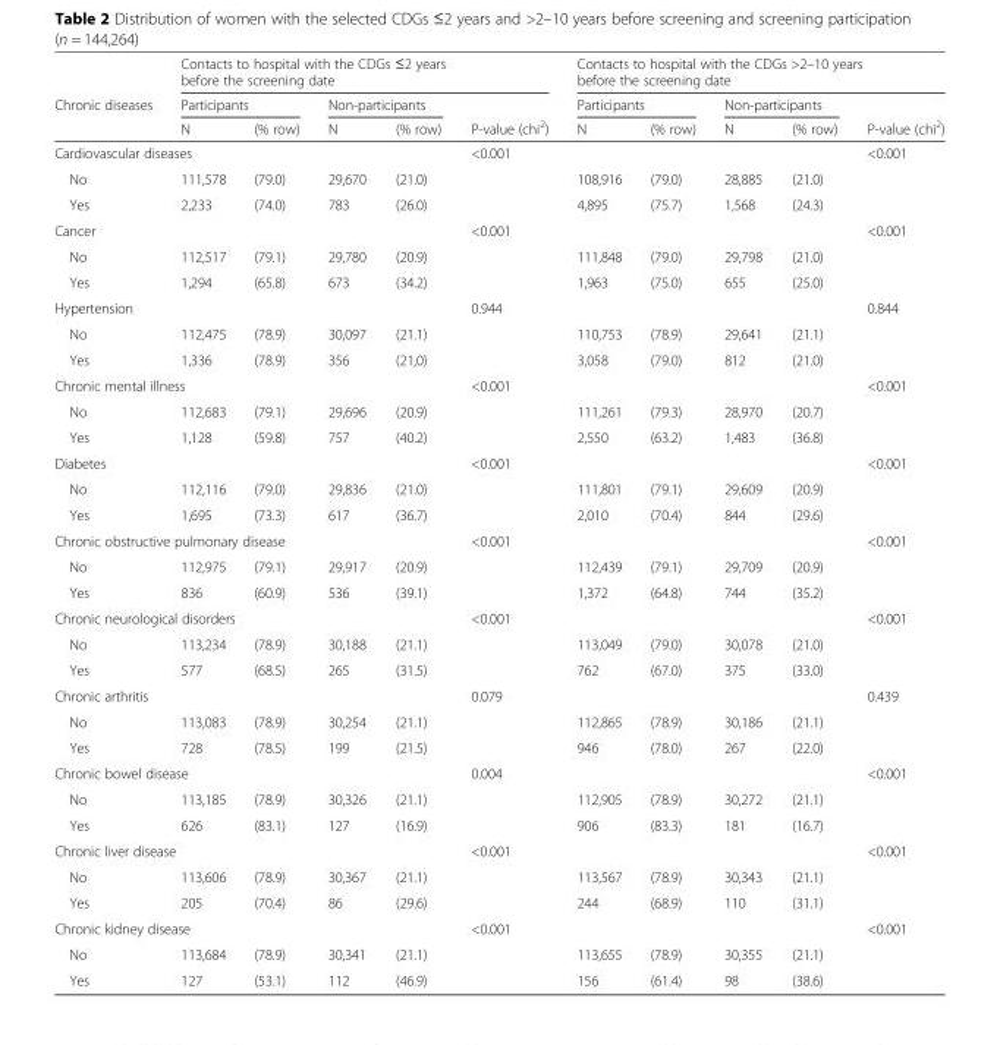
<table><thead><tr><td rowspan="3">Chronic diseases</td><td colspan="5">Contacts to hospital with the CDGs ≤2 years before the screening date</td><td colspan="5">Contacts to hospital with the CDGs &gt;2–10 years before the screening date</td></tr><tr><td colspan="2">Participants</td><td colspan="2">Non-participants</td><td rowspan="2">P-value (chi<sup>2</sup>)</td><td colspan="2">Participants</td><td colspan="2">Non-participants</td><td rowspan="2">P-value (chi<sup>2</sup>)</td></tr><tr><td>N</td><td>(% row)</td><td>N</td><td>(% row)</td><td>N</td><td>(% row)</td><td>N</td><td>(% row)</td></tr></thead><tbody><tr><td colspan="5">Cardiovascular diseases</td><td>&lt;0.001</td><td></td><td></td><td></td><td></td><td>&lt;0.001</td></tr><tr><td>No</td><td>111,578</td><td>(79.0)</td><td>29,670</td><td>(21.0)</td><td></td><td>108,916</td><td>(79.0)</td><td>28,885</td><td>(21.0)</td><td></td></tr><tr><td>Yes</td><td>2,233</td><td>(74.0)</td><td>783</td><td>(26.0)</td><td></td><td>4,895</td><td>(75.7)</td><td>1,568</td><td>(24.3)</td><td></td></tr><tr><td colspan="5">Cancer</td><td>&lt;0.001</td><td></td><td></td><td></td><td></td><td>&lt;0.001</td></tr><tr><td>No</td><td>112,517</td><td>(79.1)</td><td>29,780</td><td>(20.9)</td><td></td><td>111,848</td><td>(79.0)</td><td>29,798</td><td>(21.0)</td><td></td></tr><tr><td>Yes</td><td>1,294</td><td>(65.8)</td><td>673</td><td>(34.2)</td><td></td><td>1,963</td><td>(75.0)</td><td>655</td><td>(25.0)</td><td></td></tr><tr><td colspan="2">Hypertension</td><td></td><td></td><td></td><td>0.944</td><td></td><td></td><td></td><td></td><td>0.844</td></tr><tr><td>No</td><td>112,475</td><td>(78.9)</td><td>30,097</td><td>(21.1)</td><td></td><td>110,753</td><td>(78.9)</td><td>29,641</td><td>(21.1)</td><td></td></tr><tr><td>Yes</td><td>1,336</td><td>(78.9)</td><td>356</td><td>(21,0)</td><td></td><td>3,058</td><td>(79.0)</td><td>812</td><td>(21.0)</td><td></td></tr><tr><td colspan="5">Chronic mental illness</td><td>&lt;0.001</td><td></td><td></td><td></td><td></td><td>&lt;0.001</td></tr><tr><td>No</td><td>112,683</td><td>(79.1)</td><td>29,696</td><td>(20.9)</td><td></td><td>111,261</td><td>(79.3)</td><td>28,970</td><td>(20.7)</td><td></td></tr><tr><td>Yes</td><td>1,128</td><td>(59.8)</td><td>757</td><td>(40.2)</td><td></td><td>2,550</td><td>(63.2)</td><td>1,483</td><td>(36.8)</td><td></td></tr><tr><td>Diabetes</td><td></td><td></td><td></td><td></td><td>&lt;0.001</td><td></td><td></td><td></td><td></td><td>&lt;0.001</td></tr><tr><td>No</td><td>112,116</td><td>(79.0)</td><td>29,836</td><td>(21.0)</td><td></td><td>111,801</td><td>(79.1)</td><td>29,609</td><td>(20.9)</td><td></td></tr><tr><td>Yes</td><td>1,695</td><td>(73.3)</td><td>617</td><td>(36.7)</td><td></td><td>2,010</td><td>(70.4)</td><td>844</td><td>(29.6)</td><td></td></tr><tr><td colspan="5">Chronic obstructive pulmonary disease</td><td>&lt;0.001</td><td></td><td></td><td></td><td></td><td>&lt;0.001</td></tr><tr><td>No</td><td>112,975</td><td>(79.1)</td><td>29,917</td><td>(20.9)</td><td></td><td>112,439</td><td>(79.1)</td><td>29,709</td><td>(20.9)</td><td></td></tr><tr><td>Yes</td><td>836</td><td>(60.9)</td><td>536</td><td>(39.1)</td><td></td><td>1,372</td><td>(64.8)</td><td>744</td><td>(35.2)</td><td></td></tr><tr><td colspan="5">Chronic neurological disorders</td><td>&lt;0.001</td><td colspan="2"></td><td></td><td></td><td>&lt;0.001</td></tr><tr><td>No</td><td>113,234</td><td>(78.9)</td><td>30,188</td><td>(21.1)</td><td></td><td>113,049</td><td>(79.0)</td><td>30,078</td><td>(21.0)</td><td></td></tr><tr><td>Yes</td><td>577</td><td>(68.5)</td><td>265</td><td>(31.5)</td><td></td><td>762</td><td>(67.0)</td><td>375</td><td>(33.0)</td><td></td></tr><tr><td colspan="5">Chronic arthritis</td><td>0.079</td><td></td><td></td><td></td><td></td><td>0.439</td></tr><tr><td>No</td><td>113,083</td><td>(78.9)</td><td>30,254</td><td>(21.1)</td><td></td><td>112,865</td><td>(78.9)</td><td>30,186</td><td>(21.1)</td><td></td></tr><tr><td>Yes</td><td>728</td><td>(78.5)</td><td>199</td><td>(21.5)</td><td></td><td>946</td><td>(78.0)</td><td>267</td><td>(22.0)</td><td></td></tr><tr><td colspan="5">Chronic bowel disease</td><td>0.004</td><td></td><td></td><td></td><td></td><td>&lt;0.001</td></tr><tr><td>No</td><td>113,185</td><td>(78.9)</td><td>30,326</td><td>(21.1)</td><td></td><td>112,905</td><td>(78.9)</td><td>30,272</td><td>(21.1)</td><td></td></tr><tr><td>Yes</td><td>626</td><td>(83.1)</td><td>127</td><td>(16.9)</td><td></td><td>906</td><td>(83.3)</td><td>181</td><td>(16.7)</td><td></td></tr><tr><td colspan="5">Chronic liver disease</td><td>&lt;0.001</td><td></td><td></td><td></td><td></td><td>&lt;0.001</td></tr><tr><td>No</td><td>113,606</td><td>(78.9)</td><td>30,367</td><td>(21.1)</td><td></td><td>113,567</td><td>(78.9)</td><td>30,343</td><td>(21.1)</td><td></td></tr><tr><td>Yes</td><td>205</td><td>(70.4)</td><td>86</td><td>(29.6)</td><td></td><td>244</td><td>(68.9)</td><td>110</td><td>(31.1)</td><td></td></tr><tr><td colspan="5">Chronic kidney disease</td><td>&lt;0.001</td><td></td><td></td><td></td><td></td><td>&lt;0.001</td></tr><tr><td>No</td><td>113,684</td><td>(78.9)</td><td>30,341</td><td>(21.1)</td><td></td><td>113,655</td><td>(78.9)</td><td>30,355</td><td>(21.1)</td><td></td></tr><tr><td>Yes</td><td>127</td><td>(53.1)</td><td>112</td><td>(46.9)</td><td></td><td>156</td><td>(61.4)</td><td>98</td><td>(38.6)</td><td></td></tr></tbody></table>